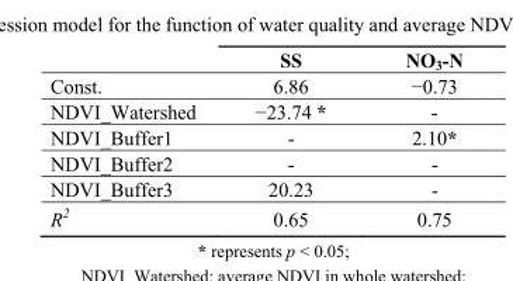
<table><thead><tr><td></td><td>SS</td><td>NO<sub>3</sub>-N</td></tr></thead><tbody><tr><td>Const.</td><td>6.86</td><td>−0.73</td></tr><tr><td>NDVI_Watershed</td><td>−23.74 *</td><td>-</td></tr><tr><td>NDVI_Buffer1</td><td>-</td><td>2.10*</td></tr><tr><td>NDVI_Buffer2</td><td>-</td><td>-</td></tr><tr><td>NDVI_Buffer3</td><td>20.23</td><td>-</td></tr><tr><td>R<sup>2</sup></td><td>0.65</td><td>0.75</td></tr></tbody></table>